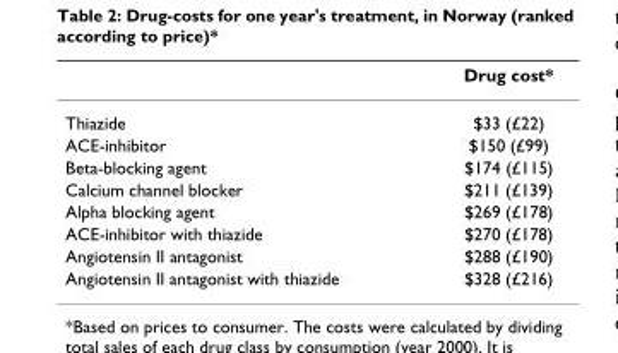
<table><thead><tr><td></td><td>Drug cost*</td></tr></thead><tbody><tr><td>Thiazide</td><td>$33 (£22)</td></tr><tr><td>ACE-inhibitor</td><td>$150 (£99)</td></tr><tr><td>Beta-blocking agent</td><td>$174 (£115)</td></tr><tr><td>Calcium channel blocker</td><td>$211 (£139)</td></tr><tr><td>Alpha blocking agent</td><td>$269 (£178)</td></tr><tr><td>ACE-inhibitor with thiazide</td><td>$270 (£178)</td></tr><tr><td>Angiotensin II antagonist</td><td>$288 (£190)</td></tr><tr><td>Angiotensin II antagonist with thiazide</td><td>$328 (£216)</td></tr></tbody></table>